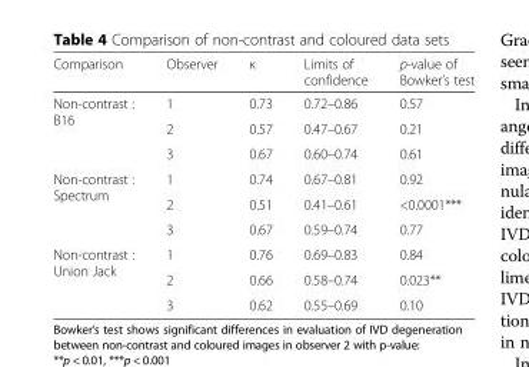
<table><thead><tr><td>Comparison</td><td>Observer</td><td>ĸ</td><td>Limits of confidence</td><td>p-value of Bowker’s test</td></tr></thead><tbody><tr><td rowspan="3">Non-contrast : B16</td><td>1</td><td>0.73</td><td>0.72–0.86</td><td>0.57</td></tr><tr><td>2</td><td>0.57</td><td>0.47–0.67</td><td>0.21</td></tr><tr><td>3</td><td>0.67</td><td>0.60–0.74</td><td>0.61</td></tr><tr><td rowspan="3">Non-contrast : Spectrum</td><td>1</td><td>0.74</td><td>0.67–0.81</td><td>0.92</td></tr><tr><td>2</td><td>0.51</td><td>0.41–0.61</td><td>&lt;0.0001***</td></tr><tr><td>3</td><td>0.67</td><td>0.59–0.74</td><td>0.77</td></tr><tr><td rowspan="3">Non-contrast : Union Jack</td><td>1</td><td>0.76</td><td>0.69–0.83</td><td>0.84</td></tr><tr><td>2</td><td>0.66</td><td>0.58–0.74</td><td>0.023**</td></tr><tr><td>3</td><td>0.62</td><td>0.55–0.69</td><td>0.10</td></tr></tbody></table>